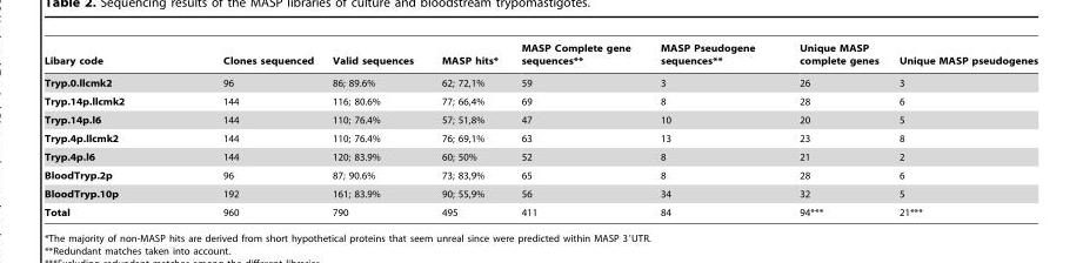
<table><thead><tr><td>Libary code</td><td>Clones sequenced</td><td>Valid sequences</td><td>MASP hits*</td><td>MASP Complete gene sequences**</td><td>MASP Pseudogene sequences**</td><td>Unique MASP complete genes</td><td>Unique MASP pseudogenes</td></tr></thead><tbody><tr><td>Tryp.0.llcmk2</td><td>96</td><td>86; 89.6%</td><td>62; 72,1%</td><td>59</td><td>3</td><td>26</td><td>3</td></tr><tr><td>Tryp.14p.llcmk2</td><td>144</td><td>116; 80.6%</td><td>77; 66,4%</td><td>69</td><td>8</td><td>28</td><td>6</td></tr><tr><td>Tryp.14p.l6</td><td>144</td><td>110; 76.4%</td><td>57; 51,8%</td><td>47</td><td>10</td><td>20</td><td>5</td></tr><tr><td>Tryp.4p.llcmk2</td><td>144</td><td>110; 76.4%</td><td>76; 69,1%</td><td>63</td><td>13</td><td>23</td><td>8</td></tr><tr><td>Tryp.4p.l6</td><td>144</td><td>120; 83.9%</td><td>60; 50%</td><td>52</td><td>8</td><td>21</td><td>2</td></tr><tr><td>BloodTryp.2p</td><td>96</td><td>87; 90.6%</td><td>73; 83,9%</td><td>65</td><td>8</td><td>28</td><td>6</td></tr><tr><td>BloodTryp.10p</td><td>192</td><td>161; 83.9%</td><td>90; 55,9%</td><td>56</td><td>34</td><td>32</td><td>5</td></tr><tr><td>Total</td><td>960</td><td>790</td><td>495</td><td>411</td><td>84</td><td>94***</td><td>21***</td></tr></tbody></table>